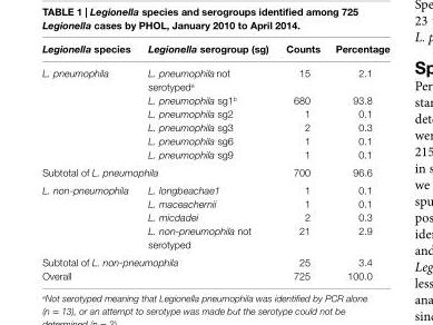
<table><thead><tr><td>Legionella species</td><td>Legionella serogroup (sg)</td><td>counts</td><td>Percentage</td></tr></thead><tbody><tr><td rowspan="6">L. pneumophila</td><td>L. pneumophila not serotyped<sup>a</sup></td><td>15</td><td>2.1</td></tr><tr><td>L. pneumophila sg1<sup>b</sup></td><td>680</td><td>93.8</td></tr><tr><td>L. pneumophila sg2</td><td>1</td><td>0.1</td></tr><tr><td>L. pneumophila sg3</td><td>2</td><td>0.3</td></tr><tr><td>L. pneumophila sg6</td><td>1</td><td>0.1</td></tr><tr><td>L. pneumophila sg9</td><td>1</td><td>0.1</td></tr><tr><td colspan="2">Subtotal of L. pneumophila</td><td>700</td><td>96.6</td></tr><tr><td rowspan="4">L. non-pneumophila</td><td>L. longbeachae1</td><td>1</td><td>0.1</td></tr><tr><td>L. maceachernii</td><td>1</td><td>0.1</td></tr><tr><td>L. micdadei</td><td>2</td><td>0.3</td></tr><tr><td>L. non-pneumophila not serotyped</td><td>21</td><td>2.9</td></tr><tr><td colspan="2">Subtotal of L. non-pneumophila</td><td>25</td><td>3.4</td></tr><tr><td colspan="2">Overall</td><td>725</td><td>100.0</td></tr></tbody></table>